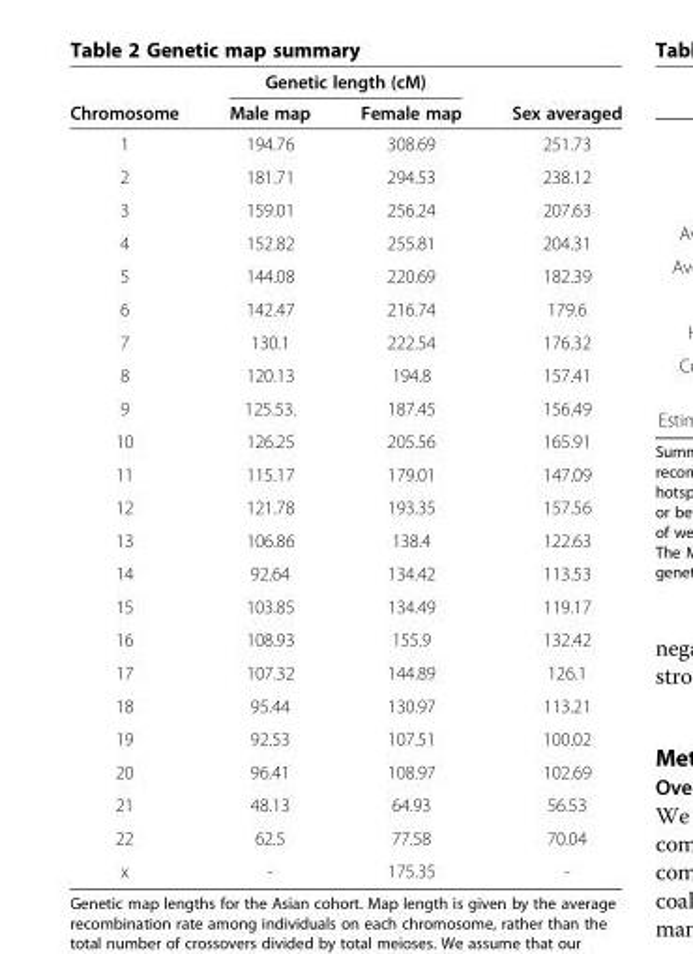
<table><thead><tr><td rowspan="2">Chromosome</td><td colspan="2">Genetic length (cM)</td><td rowspan="2">Sex averaged</td></tr><tr><td>Male map</td><td>Female map</td></tr></thead><tbody><tr><td>1</td><td>194.76</td><td>308.69</td><td>251.73</td></tr><tr><td>2</td><td>181.71</td><td>294.53</td><td>238.12</td></tr><tr><td>3</td><td>159.01</td><td>256.24</td><td>207.63</td></tr><tr><td>4</td><td>152.82</td><td>255.81</td><td>204.31</td></tr><tr><td>5</td><td>144.08</td><td>220.69</td><td>182.39</td></tr><tr><td>6</td><td>142.47</td><td>216.74</td><td>179.6</td></tr><tr><td>7</td><td>130.1</td><td>222.54</td><td>176.32</td></tr><tr><td>8</td><td>120.13</td><td>194.8</td><td>157.41</td></tr><tr><td>9</td><td>125.53.</td><td>187.45</td><td>156.49</td></tr><tr><td>10</td><td>126.25</td><td>205.56</td><td>165.91</td></tr><tr><td>11</td><td>115.17</td><td>179.01</td><td>147.09</td></tr><tr><td>12</td><td>121.78</td><td>193.35</td><td>157.56</td></tr><tr><td>13</td><td>106.86</td><td>138.4</td><td>122.63</td></tr><tr><td>14</td><td>92.64</td><td>134.42</td><td>113.53</td></tr><tr><td>15</td><td>103.85</td><td>134.49</td><td>119.17</td></tr><tr><td>16</td><td>108.93</td><td>155.9</td><td>132.42</td></tr><tr><td>17</td><td>107.32</td><td>144.89</td><td>126.1</td></tr><tr><td>18</td><td>95.44</td><td>130.97</td><td>113.21</td></tr><tr><td>19</td><td>92.53</td><td>107.51</td><td>100.02</td></tr><tr><td>20</td><td>96.41</td><td>108.97</td><td>102.69</td></tr><tr><td>21</td><td>48.13</td><td>64.93</td><td>56.53</td></tr><tr><td>22</td><td>62.5</td><td>77.58</td><td>70.04</td></tr><tr><td>x</td><td>-</td><td>175.35</td><td>-</td></tr></tbody></table>